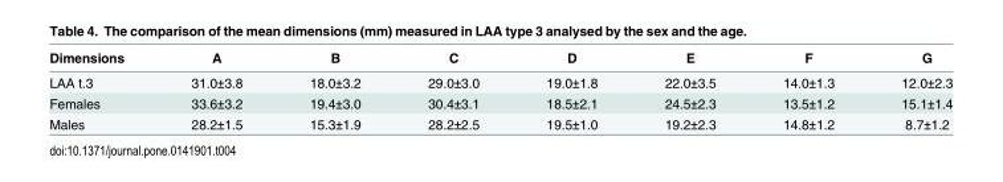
<table><thead><tr><td>Dimensions</td><td>A</td><td>B</td><td>C</td><td>D</td><td>E</td><td>F</td><td>G</td></tr></thead><tbody><tr><td>LAA t.3</td><td>31.0±3.8</td><td>18.0±3.2</td><td>29.0±3.0</td><td>19.0±1.8</td><td>22.0±3.5</td><td>14.0±1.3</td><td>12.0±2.3</td></tr><tr><td>Females</td><td>33.6±3.2</td><td>19.4±3.0</td><td>30.4±3.1</td><td>18.5±2.1</td><td>24.5±2.3</td><td>13.5±1.2</td><td>15.1±1.4</td></tr><tr><td>Males</td><td>28.2±1.5</td><td>15.3±1.9</td><td>28.2±2.5</td><td>19.5±1.0</td><td>19.2±2.3</td><td>14.8±1.2</td><td>8.7±1.2</td></tr></tbody></table>